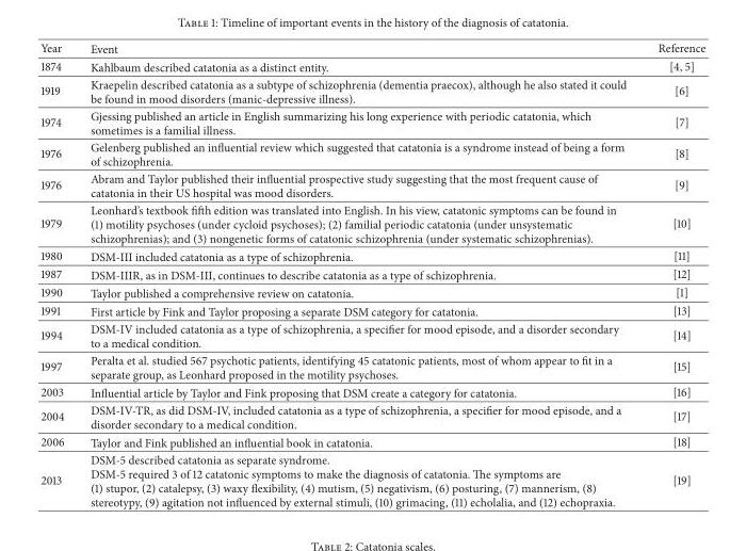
<table><thead><tr><td>Year</td><td>Event</td><td>Reference</td></tr></thead><tbody><tr><td>1874</td><td>Kahlbaum described catatonia as a distinct entity.</td><td>[4, 5]</td></tr><tr><td>1919</td><td>Kraepelin described catatonia as a subtype of schizophrenia (dementia praecox), although he also stated it could be found in mood disorders (manic-depressive illness).</td><td>[6]</td></tr><tr><td>1974</td><td>Gjessing published an article in English summarizing his long experience with periodic catatonia, which sometimes is a familial illness.</td><td>[7]</td></tr><tr><td>1976</td><td>Gelenberg published an influential review which suggested that catatonia is a syndrome instead of being a form of schizophrenia.</td><td>[8]</td></tr><tr><td>1976</td><td>Abram and Taylor published their influential prospective study suggesting that the most frequent cause of catatonia in their US hospital was mood disorders.</td><td>[9]</td></tr><tr><td>1979</td><td>Leonhard’s textbook fifth edition was translated into English. In his view, catatonic symptoms can be found in (1) motility psychoses (under cycloid psychoses); (2) familial periodic catatonia (under unsystematic schizophrenias); and (3) nongenetic forms of catatonic schizophrenia (under systematic schizophrenias).</td><td>[10]</td></tr><tr><td>1980</td><td>DSM-III included catatonia as a type of schizophrenia.</td><td>[11]</td></tr><tr><td>1987</td><td>DSM-IIIR, as in DSM-III, continues to describe catatonia as a type of schizophrenia.</td><td>[12]</td></tr><tr><td>1990</td><td>Taylor published a comprehensive review on catatonia.</td><td>[1]</td></tr><tr><td>1991</td><td>First article by Fink and Taylor proposing a separate DSM category for catatonia.</td><td>[13]</td></tr><tr><td>1994</td><td>DSM-IV included catatonia as a type of schizophrenia, a specifier for mood episode, and a disorder secondary to a medical condition.</td><td>[14]</td></tr><tr><td>1997</td><td>Peralta et al. studied 567 psychotic patients, identifying 45 catatonic patients, most of whom appear to fit in a separate group, as Leonhard proposed in the motility psychoses.</td><td>[15]</td></tr><tr><td>2003</td><td>Influential article by Taylor and Fink proposing that DSM create a category for catatonia.</td><td>[16]</td></tr><tr><td>2004</td><td>DSM-IV-TR, as did DSM-IV, included catatonia as a type of schizophrenia, a specifier for mood episode, and a disorder secondary to a medical condition.</td><td>[17]</td></tr><tr><td>2006</td><td>Taylor and Fink published an influential book in catatonia.</td><td>[18]</td></tr><tr><td>2013</td><td>DSM-5 described catatonia as separate syndrome. DSM-5 required 3 of 12 catatonic symptoms to make the diagnosis of catatonia. The symptoms are (1) stupor, (2) catalepsy, (3) waxy flexibility, (4) mutism, (5) negativism, (6) posturing, (7) mannerism, (8) stereotypy, (9) agitation not influenced by external stimuli, (10) grimacing, (11) echolalia, and (12) echopraxia.</td><td>[19]</td></tr></tbody></table>